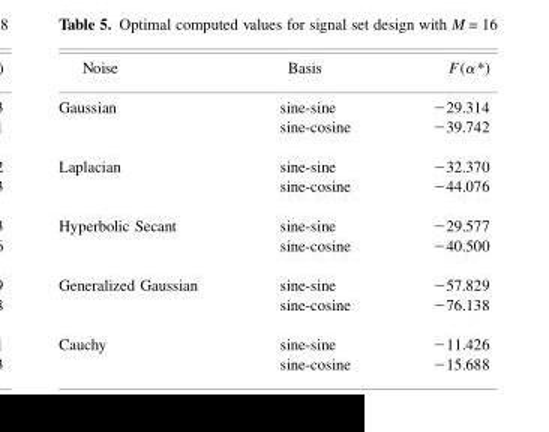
<table><thead><tr><td>Noise</td><td>Basis</td><td>F(α*)</td></tr></thead><tbody><tr><td rowspan="2">Gaussian</td><td>sine-sine</td><td>−29.314</td></tr><tr><td>sine-cosine</td><td>−39.742</td></tr><tr><td rowspan="2">Laplacian</td><td>sine-sine</td><td>−32.370</td></tr><tr><td>sine-cosine</td><td>−44.076</td></tr><tr><td rowspan="2">Hyperbolic Secant</td><td>sine-sine</td><td>−29.577</td></tr><tr><td>sine-cosine</td><td>−40.500</td></tr><tr><td rowspan="2">Generalized Gaussian</td><td>sine-sine</td><td>−57.829</td></tr><tr><td>sine-cosine</td><td>−76.138</td></tr><tr><td rowspan="2">Cauchy</td><td>sine-sine</td><td>−11.426</td></tr><tr><td>sine-cosine</td><td>−15.688</td></tr></tbody></table>